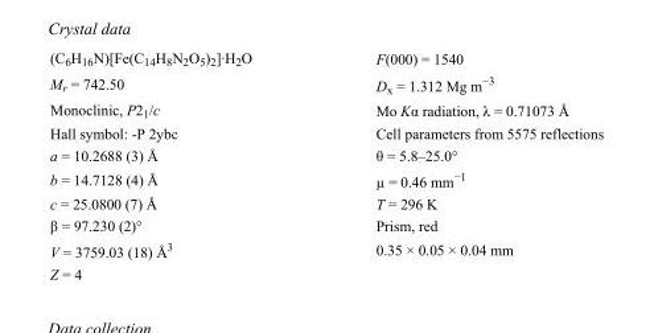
<table><tbody><tr><td>(C<sub>6</sub>H<sub>16</sub>N)[Fe(C<sub>14</sub>H<sub>8</sub>N<sub>2</sub>O<sub>5</sub>)<sub>2</sub>]·H<sub>2</sub>O</td><td>F(000) = 1540</td></tr><tr><td>M<sub>r</sub> = 742.50</td><td>D<sub>x</sub> = 1.312 Mg m<sup>−3</sup></td></tr><tr><td>Monoclinic, P2<sub>1</sub>/c</td><td>Mo Kα radiation, λ = 0.71073 Å</td></tr><tr><td>Hall symbol: -P 2ybc</td><td>Cell parameters from 5575 reflections</td></tr><tr><td>a = 10.2688 (3) Å</td><td>θ = 5.8–25.0°</td></tr><tr><td>b = 14.7128 (4) Å</td><td>µ = 0.46 mm<sup>−1</sup></td></tr><tr><td>c = 25.0800 (7) Å</td><td>T = 296 K</td></tr><tr><td>β = 97.230 (2)°</td><td>Prism, red</td></tr><tr><td>V = 3759.03 (18) Å<sup>3</sup></td><td>0.35 × 0.05 × 0.04 mm</td></tr><tr><td>Z = 4</td><td></td></tr></tbody></table>